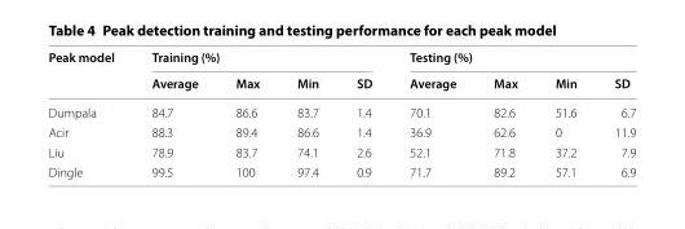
<table><thead><tr><td rowspan="2">Peak model</td><td colspan="4">Training (%)</td><td colspan="4">Testing (%)</td></tr><tr><td>Average</td><td>Max</td><td>Min</td><td>SD</td><td>Average</td><td>Max</td><td>Min</td><td>SD</td></tr></thead><tbody><tr><td>Dumpala</td><td>84.7</td><td>86.6</td><td>83.7</td><td>1.4</td><td>70.1</td><td>82.6</td><td>51.6</td><td>6.7</td></tr><tr><td>Acir</td><td>88.3</td><td>89.4</td><td>86.6</td><td>1.4</td><td>36.9</td><td>62.6</td><td>0</td><td>11.9</td></tr><tr><td>Liu</td><td>78.9</td><td>83.7</td><td>74.1</td><td>2.6</td><td>52.1</td><td>71.8</td><td>37.2</td><td>7.9</td></tr><tr><td>Dingle</td><td>99.5</td><td>100</td><td>97.4</td><td>0.9</td><td>71.7</td><td>89.2</td><td>57.1</td><td>6.9</td></tr></tbody></table>